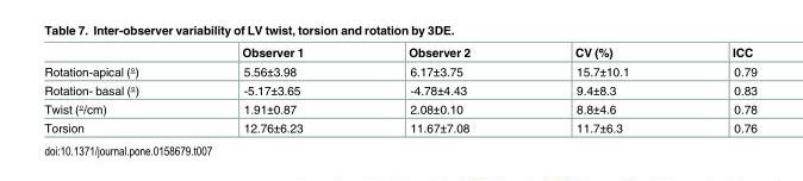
<table><thead><tr><td></td><td>Observer 1</td><td>Observer 2</td><td>CV (%)</td><td>ICC</td></tr></thead><tbody><tr><td>Rotation-apical (°)</td><td>5.56±3.98</td><td>6.17±3.75</td><td>15.7±10.1</td><td>0.79</td></tr><tr><td>Rotation- basal (°)</td><td>-5.17±3.65</td><td>-4.78±4.43</td><td>9.4±8.3</td><td>0.83</td></tr><tr><td>Twist (°/cm)</td><td>1.91±0.87</td><td>2.08±0.10</td><td>8.8±4.6</td><td>0.78</td></tr><tr><td>Torsion</td><td>12.76±6.23</td><td>11.67±7.08</td><td>11.7±6.3</td><td>0.76</td></tr></tbody></table>